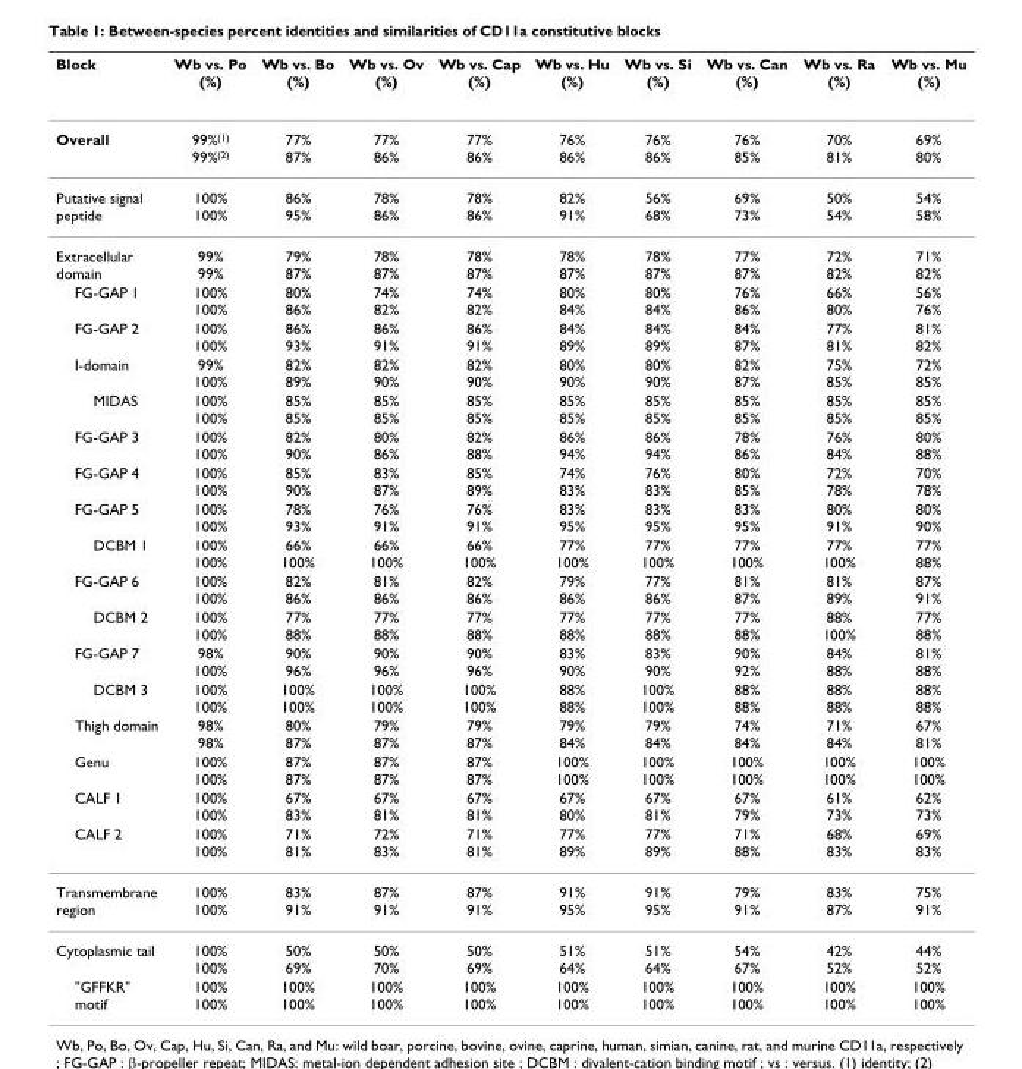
<table><thead><tr><td>Block</td><td>Wb vs. Po (%)</td><td>Wb vs. Bo (%)</td><td>Wb vs. Ov (%)</td><td>Wb vs. Cap (%)</td><td>Wb vs. Hu (%)</td><td>Wb vs. Si (%)</td><td>Wb vs. Can (%)</td><td>Wb vs. Ra (%)</td><td>Wb vs. Mu (%)</td></tr></thead><tbody><tr><td>Overall</td><td>99%<sup>(1)</sup> 99%<sup>(2)</sup></td><td>77% 87%</td><td>77% 86%</td><td>77% 86%</td><td>76% 86%</td><td>76% 86%</td><td>76% 85%</td><td>70% 81%</td><td>69% 80%</td></tr><tr><td>Putative signal peptide</td><td>100% 100%</td><td>86% 95%</td><td>78% 86%</td><td>78% 86%</td><td>82% 91%</td><td>56% 68%</td><td>69% 73%</td><td>50% 54%</td><td>54% 58%</td></tr><tr><td>Extracellular domain</td><td>99% 99%</td><td>79% 87%</td><td>78% 87%</td><td>78% 87%</td><td>78% 87%</td><td>78% 87%</td><td>77% 87%</td><td>72% 82%</td><td>71% 82%</td></tr><tr><td>FG-GAP 1</td><td>100% 100%</td><td>80% 86%</td><td>74% 82%</td><td>74% 82%</td><td>80% 84%</td><td>80% 84%</td><td>76% 86%</td><td>66% 80%</td><td>56% 76%</td></tr><tr><td>FG-GAP 2</td><td>100% 100%</td><td>86% 93%</td><td>86% 91%</td><td>86% 91%</td><td>84% 89%</td><td>84% 89%</td><td>84% 87%</td><td>77% 81%</td><td>81% 82%</td></tr><tr><td>I-domain</td><td>99% 100%</td><td>82% 89%</td><td>82% 90%</td><td>82% 90%</td><td>80% 90%</td><td>80% 90%</td><td>82% 87%</td><td>75% 85%</td><td>72% 85%</td></tr><tr><td>MIDAS</td><td>100% 100%</td><td>85% 85%</td><td>85% 85%</td><td>85% 85%</td><td>85% 85%</td><td>85% 85%</td><td>85% 85%</td><td>85% 85%</td><td>85% 85%</td></tr><tr><td>FG-GAP 3</td><td>100% 100%</td><td>82% 90%</td><td>80% 86%</td><td>82% 88%</td><td>86% 94%</td><td>86% 94%</td><td>78% 86%</td><td>76% 84%</td><td>80% 88%</td></tr><tr><td>FG-GAP 4</td><td>100% 100%</td><td>85% 90%</td><td>83% 87%</td><td>85% 89%</td><td>74% 83%</td><td>76% 83%</td><td>80% 85%</td><td>72% 78%</td><td>70% 78%</td></tr><tr><td>FG-GAP 5</td><td>100% 100%</td><td>78% 93%</td><td>76% 91%</td><td>76% 91%</td><td>83% 95%</td><td>83% 95%</td><td>83% 95%</td><td>80% 91%</td><td>80% 90%</td></tr><tr><td>DCBM 1</td><td>100% 100%</td><td>66% 100%</td><td>66% 100%</td><td>66% 100%</td><td>77% 100%</td><td>77% 100%</td><td>77% 100%</td><td>77% 100%</td><td>77% 88%</td></tr><tr><td>FG-GAP 6</td><td>100% 100%</td><td>82% 86%</td><td>81% 86%</td><td>82% 86%</td><td>79% 86%</td><td>77% 86%</td><td>81% 87%</td><td>81% 89%</td><td>87% 91%</td></tr><tr><td>DCBM 2</td><td>100% 100%</td><td>77% 88%</td><td>77% 88%</td><td>77% 88%</td><td>77% 88%</td><td>77% 88%</td><td>77% 88%</td><td>88% 100%</td><td>77% 88%</td></tr><tr><td>FG-GAP 7</td><td>98% 100%</td><td>90% 96%</td><td>90% 96%</td><td>90% 96%</td><td>83% 90%</td><td>83% 90%</td><td>90% 92%</td><td>84% 88%</td><td>81% 88%</td></tr><tr><td>DCBM 3</td><td>100% 100%</td><td>100% 100%</td><td>100% 100%</td><td>100% 100%</td><td>88% 88%</td><td>100% 100%</td><td>88% 88%</td><td>88% 88%</td><td>88% 88%</td></tr><tr><td>Thigh domain</td><td>98% 98%</td><td>80% 87%</td><td>79% 87%</td><td>79% 87%</td><td>79% 84%</td><td>79% 84%</td><td>74% 84%</td><td>71% 84%</td><td>67% 81%</td></tr><tr><td>Genu</td><td>100% 100%</td><td>87% 87%</td><td>87% 87%</td><td>87% 87%</td><td>100% 100%</td><td>100% 100%</td><td>100% 100%</td><td>100% 100%</td><td>100% 100%</td></tr><tr><td>CALF 1</td><td>100% 100%</td><td>67% 83%</td><td>67% 81%</td><td>67% 81%</td><td>67% 80%</td><td>67% 81%</td><td>67% 79%</td><td>61% 73%</td><td>62% 73%</td></tr><tr><td>CALF 2</td><td>100% 100%</td><td>71% 81%</td><td>72% 83%</td><td>71% 81%</td><td>77% 89%</td><td>77% 89%</td><td>71% 88%</td><td>68% 83%</td><td>69% 83%</td></tr><tr><td>Transmembrane region</td><td>100% 100%</td><td>83% 91%</td><td>87% 91%</td><td>87% 91%</td><td>91% 95%</td><td>91% 95%</td><td>79% 91%</td><td>83% 87%</td><td>75% 91%</td></tr><tr><td>Cytoplasmic tail</td><td>100% 100%</td><td>50% 69%</td><td>50% 70%</td><td>50% 69%</td><td>51% 64%</td><td>51% 64%</td><td>54% 67%</td><td>42% 52%</td><td>44% 52%</td></tr><tr><td>&quot;GFFKR&quot; motif</td><td>100% 100%</td><td>100% 100%</td><td>100% 100%</td><td>100% 100%</td><td>100% 100%</td><td>100% 100%</td><td>100% 100%</td><td>100% 100%</td><td>100% 100%</td></tr></tbody></table>